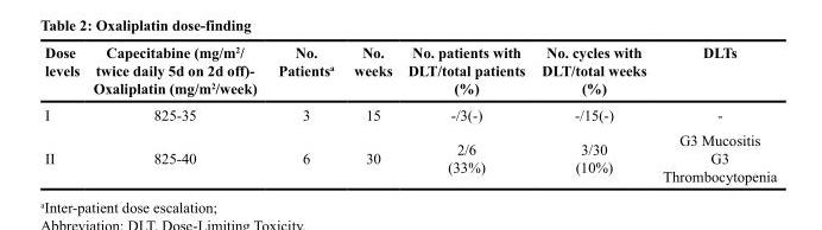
<table><thead><tr><td>Dose levels</td><td>Capecitabine (mg/m<sup>2</sup>/ twice daily 5d on 2d off)- Oxaliplatin (mg/m<sup>2</sup>/week)</td><td>No. Patients<sup>a</sup></td><td>No. weeks</td><td>No. patients with DLT/total patients (%)</td><td>No. cycles with DLT/total weeks (%)</td><td>DLTs</td></tr></thead><tbody><tr><td>I</td><td>825-35</td><td>3</td><td>15</td><td>-/3(-)</td><td>-/15(-)</td><td>-</td></tr><tr><td>II</td><td>825-40</td><td>6</td><td>30</td><td>2/6 (33%)</td><td>3/30 (10%)</td><td>G3 Mucositis G3 Thrombocytopenia</td></tr></tbody></table>